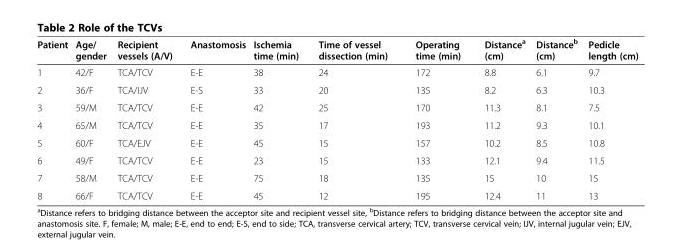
<table><thead><tr><td>Patient</td><td>Age/ gender</td><td>Recipient vessels (A/V)</td><td>Anastomosis</td><td>Ischemia time (min)</td><td>Time of vessel dissection (min)</td><td>Operating time (min)</td><td>Distance<sup>a</sup> (cm)</td><td>Distance<sup>b</sup> (cm)</td><td>Pedicle length (cm)</td></tr></thead><tbody><tr><td>1</td><td>42/F</td><td>TCA/TCV</td><td>E-E</td><td>38</td><td>24</td><td>172</td><td>8.8</td><td>6.1</td><td>9.7</td></tr><tr><td>2</td><td>36/F</td><td>TCA/IJV</td><td>E-S</td><td>33</td><td>20</td><td>135</td><td>8.2</td><td>6.3</td><td>10.3</td></tr><tr><td>3</td><td>59/M</td><td>TCA/TCV</td><td>E-E</td><td>42</td><td>25</td><td>170</td><td>11.3</td><td>8.1</td><td>7.5</td></tr><tr><td>4</td><td>65/M</td><td>TCA/TCV</td><td>E-E</td><td>35</td><td>17</td><td>193</td><td>11.2</td><td>9.3</td><td>10.1</td></tr><tr><td>5</td><td>60/F</td><td>TCA/EJV</td><td>E-E</td><td>45</td><td>15</td><td>157</td><td>10.2</td><td>8.5</td><td>10.8</td></tr><tr><td>6</td><td>49/F</td><td>TCA/TCV</td><td>E-E</td><td>23</td><td>15</td><td>133</td><td>12.1</td><td>9.4</td><td>11.5</td></tr><tr><td>7</td><td>58/M</td><td>TCA/TCV</td><td>E-E</td><td>75</td><td>18</td><td>135</td><td>15</td><td>10</td><td>15</td></tr><tr><td>8</td><td>66/F</td><td>TCA/TCV</td><td>E-E</td><td>45</td><td>12</td><td>195</td><td>12.4</td><td>11</td><td>13</td></tr></tbody></table>